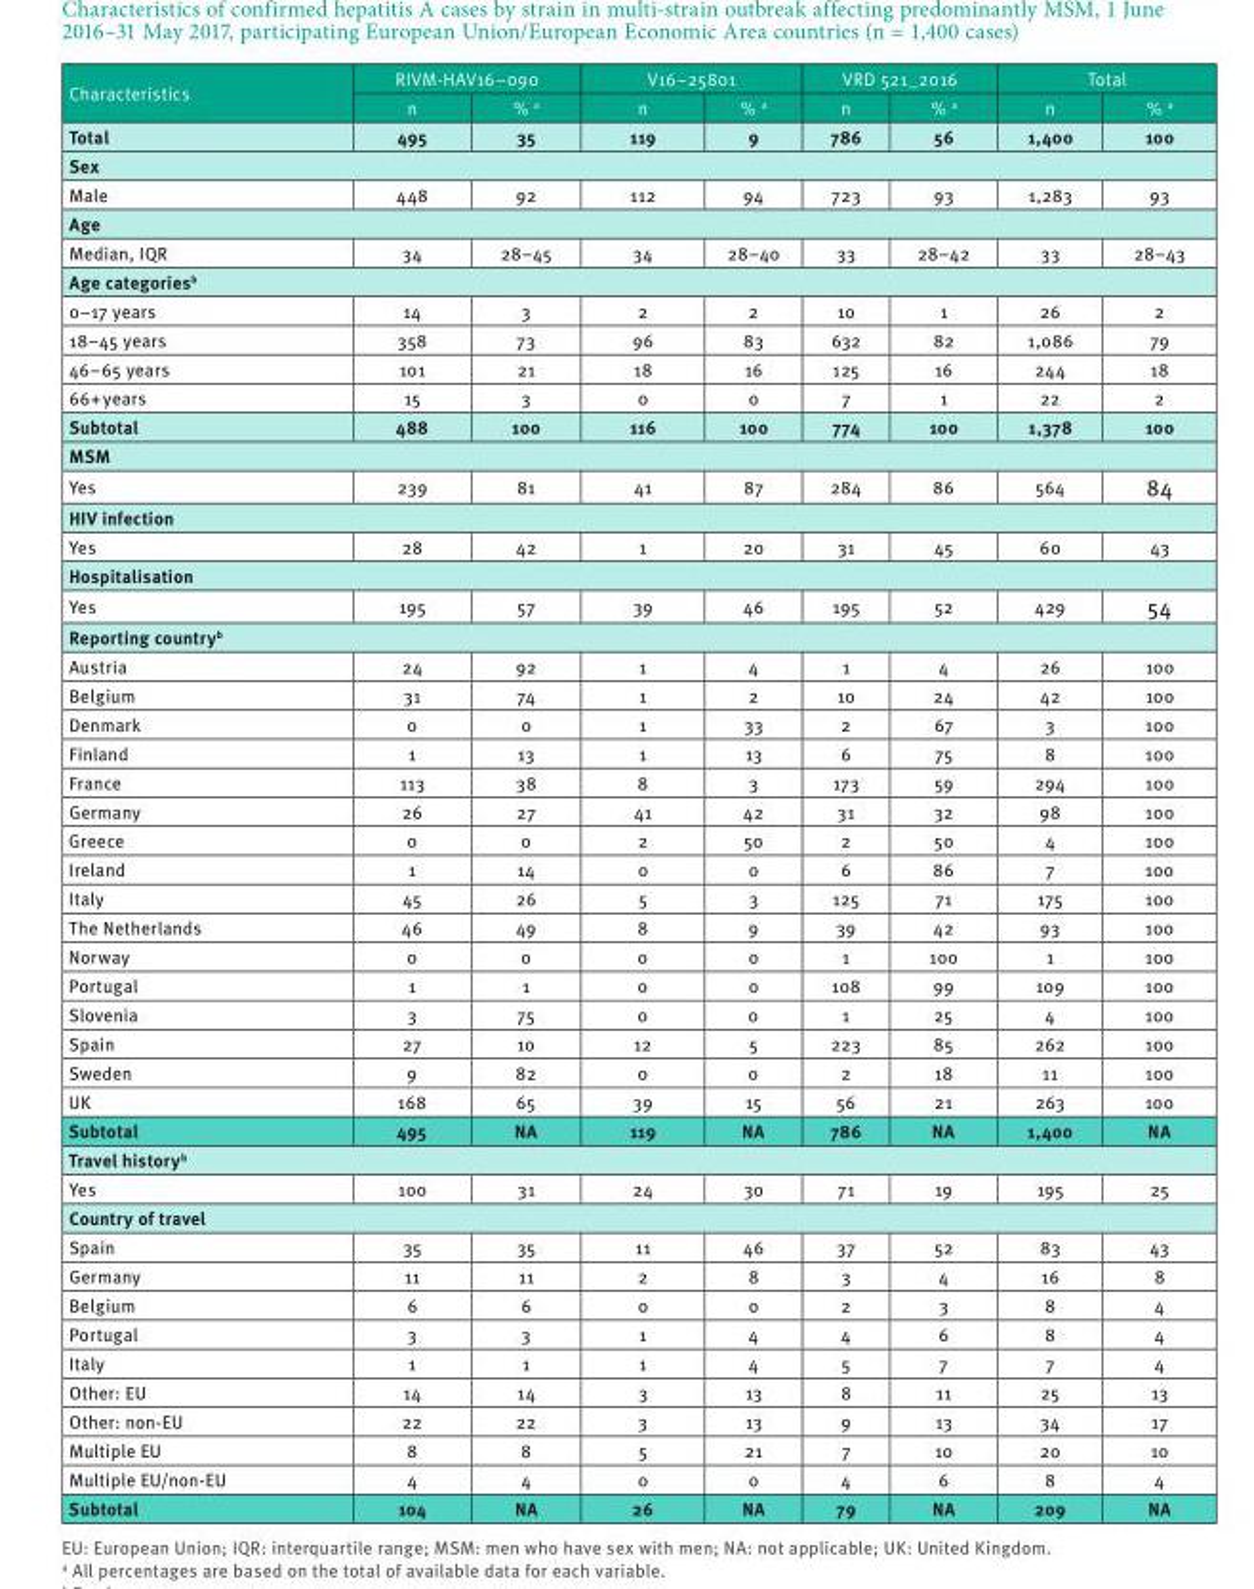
<table><thead><tr><td rowspan="2">Characteristics</td><td colspan="2">RIVM-HAV16–090</td><td colspan="2">V16–25801</td><td colspan="2">VRD 521_2016</td><td colspan="2">Total</td></tr><tr><td>n</td><td>% <sup>a</sup></td><td>n</td><td>% <sup>a</sup></td><td>n</td><td>% <sup>a</sup></td><td>n</td><td>% <sup>a</sup></td></tr></thead><tbody><tr><td>Total</td><td>495</td><td>35</td><td>119</td><td>9</td><td>786</td><td>56</td><td>1,400</td><td>100</td></tr><tr><td colspan="9">Sex</td></tr><tr><td>Male</td><td>448</td><td>92</td><td>112</td><td>94</td><td>723</td><td>93</td><td>1,283</td><td>93</td></tr><tr><td colspan="9">Age</td></tr><tr><td>Median, IQR</td><td>34</td><td>28–45</td><td>34</td><td>28–40</td><td>33</td><td>28–42</td><td>33</td><td>28–43</td></tr><tr><td colspan="9">Age categories<sup>b</sup></td></tr><tr><td>0–17 years</td><td>14</td><td>3</td><td>2</td><td>2</td><td>10</td><td>1</td><td>26</td><td>2</td></tr><tr><td>18–45 years</td><td>358</td><td>73</td><td>96</td><td>83</td><td>632</td><td>82</td><td>1,086</td><td>79</td></tr><tr><td>46–65 years</td><td>101</td><td>21</td><td>18</td><td>16</td><td>125</td><td>16</td><td>244</td><td>18</td></tr><tr><td>66+ years</td><td>15</td><td>3</td><td>0</td><td>0</td><td>7</td><td>1</td><td>22</td><td>2</td></tr><tr><td>Subtotal</td><td>488</td><td>100</td><td>116</td><td>100</td><td>774</td><td>100</td><td>1,378</td><td>100</td></tr><tr><td colspan="9">MSM</td></tr><tr><td>Yes</td><td>239</td><td>81</td><td>41</td><td>87</td><td>284</td><td>86</td><td>564</td><td>84</td></tr><tr><td colspan="9">HIV infection</td></tr><tr><td>Yes</td><td>28</td><td>42</td><td>1</td><td>20</td><td>31</td><td>45</td><td>60</td><td>43</td></tr><tr><td colspan="9">Hospitalisation</td></tr><tr><td>Yes</td><td>195</td><td>57</td><td>39</td><td>46</td><td>195</td><td>52</td><td>429</td><td>54</td></tr><tr><td colspan="9">Reporting country<sup>b</sup></td></tr><tr><td>Austria</td><td>24</td><td>92</td><td>1</td><td>4</td><td>1</td><td>4</td><td>26</td><td>100</td></tr><tr><td>Belgium</td><td>31</td><td>74</td><td>1</td><td>2</td><td>10</td><td>24</td><td>42</td><td>100</td></tr><tr><td>Denmark</td><td>0</td><td>0</td><td>1</td><td>33</td><td>2</td><td>67</td><td>3</td><td>100</td></tr><tr><td>Finland</td><td>1</td><td>13</td><td>1</td><td>13</td><td>6</td><td>75</td><td>8</td><td>100</td></tr><tr><td>France</td><td>113</td><td>38</td><td>8</td><td>3</td><td>173</td><td>59</td><td>294</td><td>100</td></tr><tr><td>Germany</td><td>26</td><td>27</td><td>41</td><td>42</td><td>31</td><td>32</td><td>98</td><td>100</td></tr><tr><td>Greece</td><td>0</td><td>0</td><td>2</td><td>50</td><td>2</td><td>50</td><td>4</td><td>100</td></tr><tr><td>Ireland</td><td>1</td><td>14</td><td>0</td><td>0</td><td>6</td><td>86</td><td>7</td><td>100</td></tr><tr><td>Italy</td><td>45</td><td>26</td><td>5</td><td>3</td><td>125</td><td>71</td><td>175</td><td>100</td></tr><tr><td>The Netherlands</td><td>46</td><td>49</td><td>8</td><td>9</td><td>39</td><td>42</td><td>93</td><td>100</td></tr><tr><td>Norway</td><td>0</td><td>0</td><td>0</td><td>0</td><td>1</td><td>100</td><td>1</td><td>100</td></tr><tr><td>Portugal</td><td>1</td><td>1</td><td>0</td><td>0</td><td>108</td><td>99</td><td>109</td><td>100</td></tr><tr><td>Slovenia</td><td>3</td><td>75</td><td>0</td><td>0</td><td>1</td><td>25</td><td>4</td><td>100</td></tr><tr><td>Spain</td><td>27</td><td>10</td><td>12</td><td>5</td><td>223</td><td>85</td><td>262</td><td>100</td></tr><tr><td>Sweden</td><td>9</td><td>82</td><td>0</td><td>0</td><td>2</td><td>18</td><td>11</td><td>100</td></tr><tr><td>UK</td><td>168</td><td>65</td><td>39</td><td>15</td><td>56</td><td>21</td><td>263</td><td>100</td></tr><tr><td>Subtotal</td><td>495</td><td>NA</td><td>119</td><td>NA</td><td>786</td><td>NA</td><td>1,400</td><td>NA</td></tr><tr><td colspan="9">Travel history<sup>b</sup></td></tr><tr><td>Yes</td><td>100</td><td>31</td><td>24</td><td>30</td><td>71</td><td>19</td><td>195</td><td>25</td></tr><tr><td colspan="9">Country of travel</td></tr><tr><td>Spain</td><td>35</td><td>35</td><td>11</td><td>46</td><td>37</td><td>52</td><td>83</td><td>43</td></tr><tr><td>Germany</td><td>11</td><td>11</td><td>2</td><td>8</td><td>3</td><td>4</td><td>16</td><td>8</td></tr><tr><td>Belgium</td><td>6</td><td>6</td><td>0</td><td>0</td><td>2</td><td>3</td><td>8</td><td>4</td></tr><tr><td>Portugal</td><td>3</td><td>3</td><td>1</td><td>4</td><td>4</td><td>6</td><td>8</td><td>4</td></tr><tr><td>Italy</td><td>1</td><td>1</td><td>1</td><td>4</td><td>5</td><td>7</td><td>7</td><td>4</td></tr><tr><td>Other: EU</td><td>14</td><td>14</td><td>3</td><td>13</td><td>8</td><td>11</td><td>25</td><td>13</td></tr><tr><td>Other: non-EU</td><td>22</td><td>22</td><td>3</td><td>13</td><td>9</td><td>13</td><td>34</td><td>17</td></tr><tr><td>Multiple EU</td><td>8</td><td>8</td><td>5</td><td>21</td><td>7</td><td>10</td><td>20</td><td>10</td></tr><tr><td>Multiple EU/non-EU</td><td>4</td><td>4</td><td>0</td><td>0</td><td>4</td><td>6</td><td>8</td><td>4</td></tr><tr><td>Subtotal</td><td>104</td><td>NA</td><td>26</td><td>NA</td><td>79</td><td>NA</td><td>209</td><td>NA</td></tr></tbody></table>